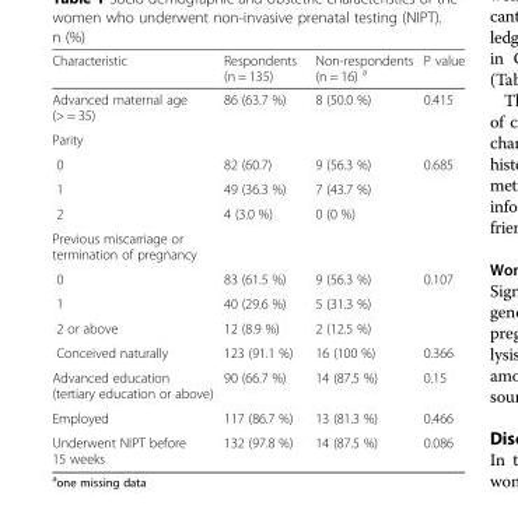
<table><thead><tr><td>Characteristic</td><td>Respondents (n = 135)</td><td>Non-respondents (n = 16) <sup>a</sup></td><td>P value</td></tr></thead><tbody><tr><td>Advanced maternal age (&gt; = 35)</td><td>86 (63.7 %)</td><td>8 (50.0 %)</td><td>0.415</td></tr><tr><td colspan="4">Parity</td></tr><tr><td>0</td><td>82 (60.7)</td><td>9 (56.3 %)</td><td>0.685</td></tr><tr><td>1</td><td>49 (36.3 %)</td><td>7 (43.7 %)</td><td rowspan="2"></td></tr><tr><td>2</td><td>4 (3.0 %)</td><td>0 (0 %)</td></tr><tr><td colspan="4">Previous miscarriage or termination of pregnancy</td></tr><tr><td>0</td><td>83 (61.5 %)</td><td>9 (56.3 %)</td><td rowspan="3">0.107</td></tr><tr><td>1</td><td>40 (29.6 %)</td><td>5 (31.3 %)</td></tr><tr><td>2 or above</td><td>12 (8.9 %)</td><td>2 (12.5 %)</td></tr><tr><td>Conceived naturally</td><td>123 (91.1 %)</td><td>16 (100 %)</td><td>0.366</td></tr><tr><td>Advanced education (tertiary education or above)</td><td>90 (66.7 %)</td><td>14 (87.5 %)</td><td>0.15</td></tr><tr><td>Employed</td><td>117 (86.7 %)</td><td>13 (81.3 %)</td><td>0.466</td></tr><tr><td>Underwent NIPT before 15 weeks</td><td>132 (97.8 %)</td><td>14 (87.5 %)</td><td>0.086</td></tr></tbody></table>